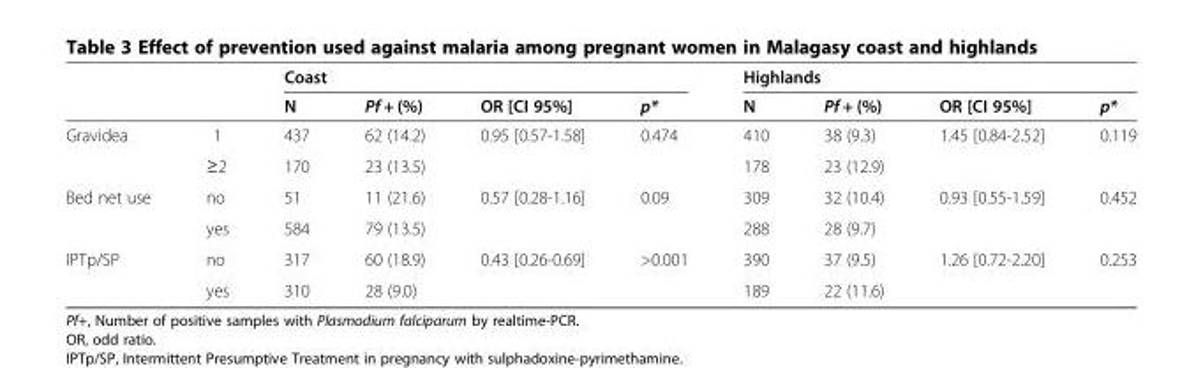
<table><thead><tr><td rowspan="2"></td><td rowspan="2"></td><td colspan="4">Coast</td><td colspan="4">Highlands</td></tr><tr><td>N</td><td>Pf + (%)</td><td>OR [CI 95%]</td><td>p*</td><td>N</td><td>Pf + (%)</td><td>OR [CI 95%]</td><td>p*</td></tr></thead><tbody><tr><td rowspan="2">Gravidea</td><td>1</td><td>437</td><td>62 (14.2)</td><td rowspan="2">0.95 [0.57-1.58]</td><td rowspan="2">0.474</td><td>410</td><td>38 (9.3)</td><td rowspan="2">1.45 [0.84-2.52]</td><td rowspan="2">0.119</td></tr><tr><td>≥2</td><td>170</td><td>23 (13.5)</td><td>178</td><td>23 (12.9)</td></tr><tr><td rowspan="2">Bed net use</td><td>no</td><td>51</td><td>11 (21.6)</td><td rowspan="2">0.57 [0.28-1.16]</td><td rowspan="2">0.09</td><td>309</td><td>32 (10.4)</td><td rowspan="2">0.93 [0.55-1.59]</td><td rowspan="2">0.452</td></tr><tr><td>yes</td><td>584</td><td>79 (13.5)</td><td>288</td><td>28 (9.7)</td></tr><tr><td rowspan="2">IPTp/SP</td><td>no</td><td>317</td><td>60 (18.9)</td><td rowspan="2">0.43 [0.26-0.69]</td><td rowspan="2">&gt;0.001</td><td>390</td><td>37 (9.5)</td><td rowspan="2">1.26 [0.72-2.20]</td><td rowspan="2">0.253</td></tr><tr><td>yes</td><td>310</td><td>28 (9.0)</td><td>189</td><td>22 (11.6)</td></tr></tbody></table>